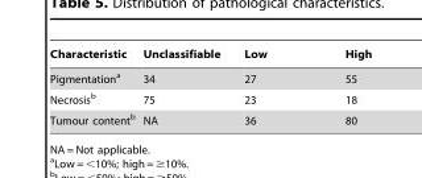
<table><thead><tr><td>Characteristic</td><td>Unclassifiable</td><td>Low</td><td>High</td></tr></thead><tbody><tr><td>Pigmentation<sup>a</sup></td><td>34</td><td>27</td><td>55</td></tr><tr><td>Necrosis<sup>b</sup></td><td>75</td><td>23</td><td>18</td></tr><tr><td>Tumour content<sup>b</sup></td><td>NA</td><td>36</td><td>80</td></tr></tbody></table>